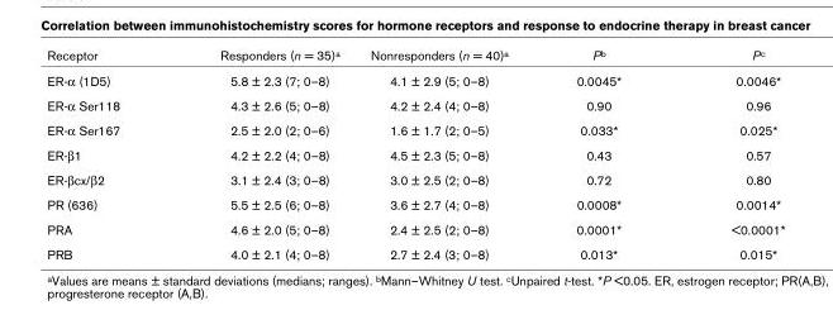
<table><thead><tr><td>Receptor</td><td>Responders (n = 35)a</td><td>Nonresponders (n = 40)a</td><td>Pb</td><td>Pc</td></tr></thead><tbody><tr><td>ER-α (1D5)</td><td>5.8 ± 2.3 (7; 0–8)</td><td>4.1 ± 2.9 (5; 0–8)</td><td>0.0045*</td><td>0.0046*</td></tr><tr><td>ER-α Ser118</td><td>4.3 ± 2.6 (5; 0–8)</td><td>4.2 ± 2.4 (4; 0–8)</td><td>0.90</td><td>0.96</td></tr><tr><td>ER-α Ser167</td><td>2.5 ± 2.0 (2; 0–6)</td><td>1.6 ± 1.7 (2; 0–5)</td><td>0.033*</td><td>0.025*</td></tr><tr><td>ER-β1</td><td>4.2 ± 2.2 (4; 0–8)</td><td>4.5 ± 2.3 (5; 0–8)</td><td>0.43</td><td>0.57</td></tr><tr><td>ER-βcx/β2</td><td>3.1 ± 2.4 (3; 0–8)</td><td>3.0 ± 2.5 (2; 0–8)</td><td>0.72</td><td>0.80</td></tr><tr><td>PR (636)</td><td>5.5 ± 2.5 (6; 0–8)</td><td>3.6 ± 2.7 (4; 0–8)</td><td>0.0008*</td><td>0.0014*</td></tr><tr><td>PRA</td><td>4.6 ± 2.0 (5; 0–8)</td><td>2.4 ± 2.5 (2; 0–8)</td><td>0.0001*</td><td>&lt;0.0001*</td></tr><tr><td>PRB</td><td>4.0 ± 2.1 (4; 0–8)</td><td>2.7 ± 2.4 (3; 0–8)</td><td>0.013*</td><td>0.015*</td></tr></tbody></table>